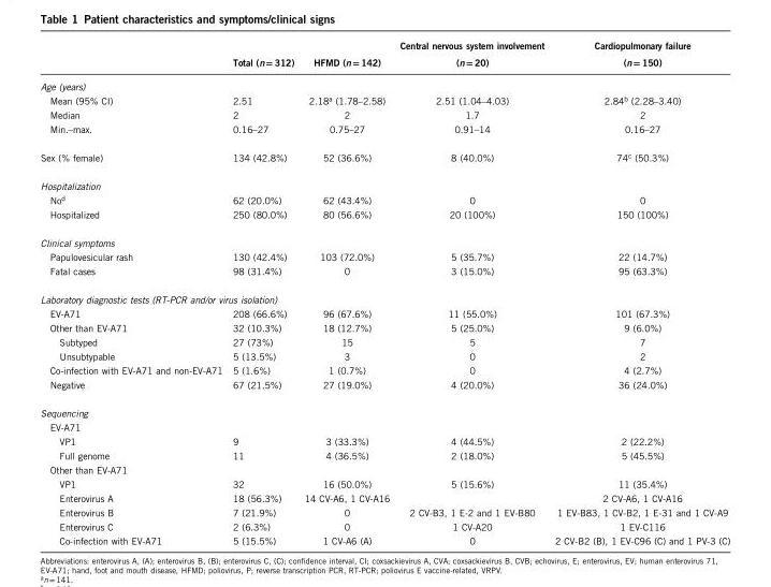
<table><thead><tr><td></td><td>Total (n = 312)</td><td>HFMD (n = 142)</td><td>Central nervous system involvement (n = 20)</td><td>Cardiopulmonary failure (n = 150)</td></tr></thead><tbody><tr><td colspan="5">Age (years)</td></tr><tr><td>Mean (95% CI)</td><td>2.51</td><td>2.18<sup>a</sup> (1.78–2.58)</td><td>2.51 (1.04–4.03)</td><td>2.84<sup>b</sup> (2.28–3.40)</td></tr><tr><td>Median</td><td>2</td><td>2</td><td>1.7</td><td>2</td></tr><tr><td>Min.–max.</td><td>0.16–27</td><td>0.75–27</td><td>0.91–14</td><td>0.16–27</td></tr><tr><td>Sex (% female)</td><td>134 (42.8%)</td><td>52 (36.6%)</td><td>8 (40.0%)</td><td>74<sup>c</sup> (50.3%)</td></tr><tr><td colspan="5">Hospitalization</td></tr><tr><td>No<sup>d</sup></td><td>62 (20.0%)</td><td>62 (43.4%)</td><td>0</td><td>0</td></tr><tr><td>Hospitalized</td><td>250 (80.0%)</td><td>80 (56.6%)</td><td>20 (100%)</td><td>150 (100%)</td></tr><tr><td colspan="5">Clinical symptoms</td></tr><tr><td>Papulovesicular rash</td><td>130 (42.4%)</td><td>103 (72.0%)</td><td>5 (35.7%)</td><td>22 (14.7%)</td></tr><tr><td>Fatal cases</td><td>98 (31.4%)</td><td>0</td><td>3 (15.0%)</td><td>95 (63.3%)</td></tr><tr><td colspan="5">Laboratory diagnostic tests (RT-PCR and/or virus isolation)</td></tr><tr><td>EV-A71</td><td>208 (66.6%)</td><td>96 (67.6%)</td><td>11 (55.0%)</td><td>101 (67.3%)</td></tr><tr><td>Other than EV-A71</td><td>32 (10.3%)</td><td>18 (12.7%)</td><td>5 (25.0%)</td><td>9 (6.0%)</td></tr><tr><td>Subtyped</td><td>27 (73%)</td><td>15</td><td>5</td><td>7</td></tr><tr><td>Unsubtypable</td><td>5 (13.5%)</td><td>3</td><td>0</td><td>2</td></tr><tr><td>Co-infection with EV-A71 and non-EV-A71</td><td>5 (1.6%)</td><td>1 (0.7%)</td><td>0</td><td>4 (2.7%)</td></tr><tr><td>Negative</td><td>67 (21.5%)</td><td>27 (19.0%)</td><td>4 (20.0%)</td><td>36 (24.0%)</td></tr><tr><td colspan="5">Sequencing</td></tr><tr><td colspan="5">EV-A71</td></tr><tr><td>VP1</td><td>9</td><td>3 (33.3%)</td><td>4 (44.5%)</td><td>2 (22.2%)</td></tr><tr><td>Full genome</td><td>11</td><td>4 (36.5%)</td><td>2 (18.0%)</td><td>5 (45.5%)</td></tr><tr><td colspan="5">Other than EV-A71</td></tr><tr><td>VP1</td><td>32</td><td>16 (50.0%)</td><td>5 (15.6%)</td><td>11 (35.4%)</td></tr><tr><td>Enterovirus A</td><td>18 (56.3%)</td><td>14 CV-A6, 1 CV-A16</td><td></td><td>2 CV-A6, 1 CV-A16</td></tr><tr><td>Enterovirus B</td><td>7 (21.9%)</td><td>0</td><td>2 CV-B3, 1 E-2 and 1 EV-B80</td><td>1 EV-B83, 1 CV-B2, 1 E-31 and 1 CV-A9</td></tr><tr><td>Enterovirus C</td><td>2 (6.3%)</td><td>0</td><td>1 CV-A20</td><td>1 EV-C116</td></tr><tr><td>Co-infection with EV-A71</td><td>5 (15.5%)</td><td>1 CV-A6 (A)</td><td>0</td><td>2 CV-B2 (B), 1 EV-C96 (C) and 1 PV-3 (C)</td></tr></tbody></table>